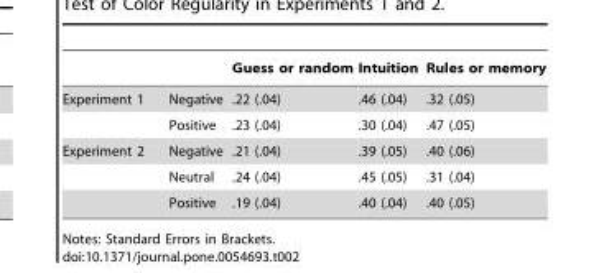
<table><thead><tr><td></td><td></td><td>Guess or random</td><td>Intuition</td><td>Rules or memory</td></tr></thead><tbody><tr><td rowspan="2">Experiment 1</td><td>Negative</td><td>.22 (.04)</td><td>.46 (.04)</td><td>.32 (.05)</td></tr><tr><td>Positive</td><td>.23 (.04)</td><td>.30 (.04)</td><td>.47 (.05)</td></tr><tr><td rowspan="3">Experiment 2</td><td>Negative</td><td>.21 (.04)</td><td>.39 (.05)</td><td>.40 (.06)</td></tr><tr><td>Neutral</td><td>.24 (.04)</td><td>.45 (.05)</td><td>.31 (.04)</td></tr><tr><td>Positive</td><td>.19 (.04)</td><td>.40 (.04)</td><td>.40 (.05)</td></tr></tbody></table>